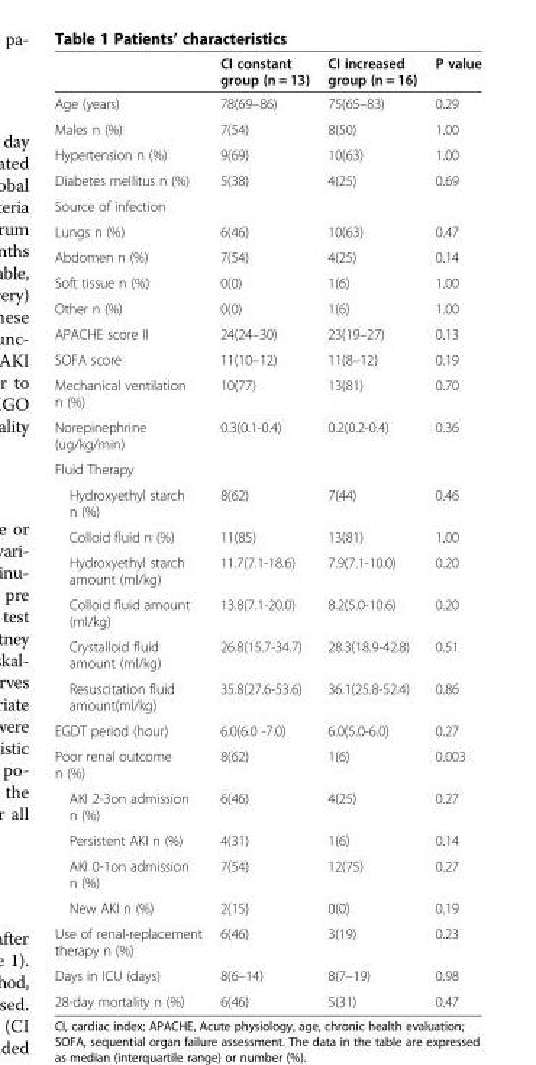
<table><thead><tr><td></td><td>CI constant group (n = 13)</td><td>CI increased group (n = 16)</td><td>P value</td></tr></thead><tbody><tr><td>Age (years)</td><td>78(69–86)</td><td>75(65–83)</td><td>0.29</td></tr><tr><td>Males n (%)</td><td>7(54)</td><td>8(50)</td><td>1.00</td></tr><tr><td>Hypertension n (%)</td><td>9(69)</td><td>10(63)</td><td>1.00</td></tr><tr><td>Diabetes mellitus n (%)</td><td>5(38)</td><td>4(25)</td><td>0.69</td></tr><tr><td colspan="4">Source of infection</td></tr><tr><td>Lungs n (%)</td><td>6(46)</td><td>10(63)</td><td>0.47</td></tr><tr><td>Abdomen n (%)</td><td>7(54)</td><td>4(25)</td><td>0.14</td></tr><tr><td>Soft tissue n (%)</td><td>0(0)</td><td>1(6)</td><td>1.00</td></tr><tr><td>Other n (%)</td><td>0(0)</td><td>1(6)</td><td>1.00</td></tr><tr><td>APACHE score II</td><td>24(24–30)</td><td>23(19–27)</td><td>0.13</td></tr><tr><td>SOFA score</td><td>11(10–12)</td><td>11(8–12)</td><td>0.19</td></tr><tr><td>Mechanical ventilation n (%)</td><td>10(77)</td><td>13(81)</td><td>0.70</td></tr><tr><td>Norepinephrine (ug/kg/min)</td><td>0.3(0.1-0.4)</td><td>0.2(0.2-0.4)</td><td>0.36</td></tr><tr><td colspan="4">Fluid Therapy</td></tr><tr><td>Hydroxyethyl starch n (%)</td><td>8(62)</td><td>7(44)</td><td>0.46</td></tr><tr><td>Colloid fluid n (%)</td><td>11(85)</td><td>13(81)</td><td>1.00</td></tr><tr><td>Hydroxyethyl starch amount (ml/kg)</td><td>11.7(7.1-18.6)</td><td>7.9(7.1-10.0)</td><td>0.20</td></tr><tr><td>Colloid fluid amount (ml/kg)</td><td>13.8(7.1-20.0)</td><td>8.2(5.0-10.6)</td><td>0.20</td></tr><tr><td>Crystalloid fluid amount (ml/kg)</td><td>26.8(15.7-34.7)</td><td>28.3(18.9-42.8)</td><td>0.51</td></tr><tr><td>Resuscitation fluid amount(ml/kg)</td><td>35.8(27.6-53.6)</td><td>36.1(25.8-52.4)</td><td>0.86</td></tr><tr><td>EGDT period (hour)</td><td>6.0(6.0 -7.0)</td><td>6.0(5.0-6.0)</td><td>0.27</td></tr><tr><td>Poor renal outcome n (%)</td><td>8(62)</td><td>1(6)</td><td>0.003</td></tr><tr><td>AKI 2-3on admission n (%)</td><td>6(46)</td><td>4(25)</td><td>0.27</td></tr><tr><td>Persistent AKI n (%)</td><td>4(31)</td><td>1(6)</td><td>0.14</td></tr><tr><td>AKI 0-1on admission n (%)</td><td>7(54)</td><td>12(75)</td><td>0.27</td></tr><tr><td>New AKI n (%)</td><td>2(15)</td><td>0(0)</td><td>0.19</td></tr><tr><td>Use of renal-replacement therapy n (%)</td><td>6(46)</td><td>3(19)</td><td>0.23</td></tr><tr><td>Days in ICU (days)</td><td>8(6–14)</td><td>8(7–19)</td><td>0.98</td></tr><tr><td>28-day mortality n (%)</td><td>6(46)</td><td>5(31)</td><td>0.47</td></tr></tbody></table>